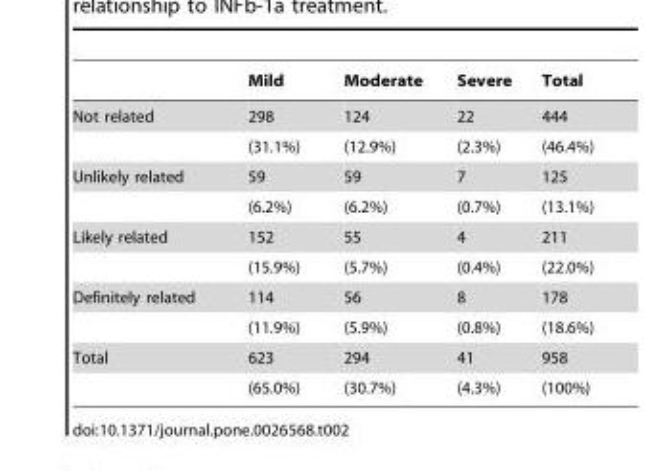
<table><thead><tr><td></td><td>Mild</td><td>Moderate</td><td>Severe</td><td>Total</td></tr></thead><tbody><tr><td rowspan="2">Not related</td><td>298</td><td>124</td><td>22</td><td>444</td></tr><tr><td>(31.1%)</td><td>(12.9%)</td><td>(2.3%)</td><td>(46.4%)</td></tr><tr><td rowspan="2">Unlikely related</td><td>59</td><td>59</td><td>7</td><td>125</td></tr><tr><td>(6.2%)</td><td>(6.2%)</td><td>(0.7%)</td><td>(13.1%)</td></tr><tr><td rowspan="2">Likely related</td><td>152</td><td>55</td><td>4</td><td>211</td></tr><tr><td>(15.9%)</td><td>(5.7%)</td><td>(0.4%)</td><td>(22.0%)</td></tr><tr><td rowspan="2">Definitely related</td><td>114</td><td>56</td><td>8</td><td>178</td></tr><tr><td>(11.9%)</td><td>(5.9%)</td><td>(0.8%)</td><td>(18.6%)</td></tr><tr><td rowspan="2">Total</td><td>623</td><td>294</td><td>41</td><td>958</td></tr><tr><td>(65.0%)</td><td>(30.7%)</td><td>(4.3%)</td><td>(100%)</td></tr></tbody></table>